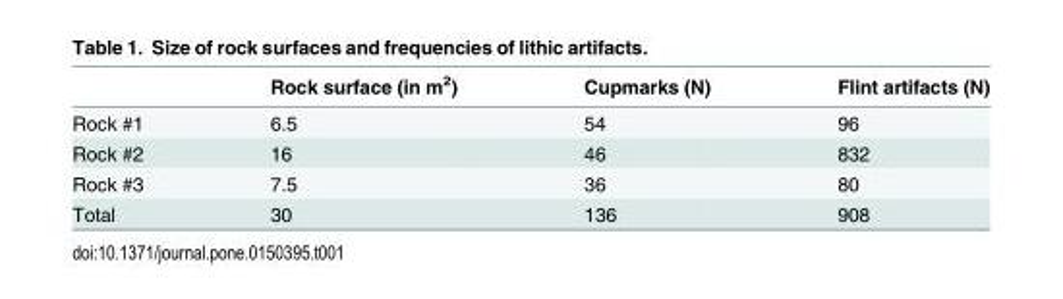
<table><thead><tr><td></td><td>Rock surface (in m<sup>2</sup>)</td><td>Cupmarks (N)</td><td>Flint artifacts (N)</td></tr></thead><tbody><tr><td>Rock #1</td><td>6.5</td><td>54</td><td>96</td></tr><tr><td>Rock #2</td><td>16</td><td>46</td><td>832</td></tr><tr><td>Rock #3</td><td>7.5</td><td>36</td><td>80</td></tr><tr><td>Total</td><td>30</td><td>136</td><td>908</td></tr></tbody></table>